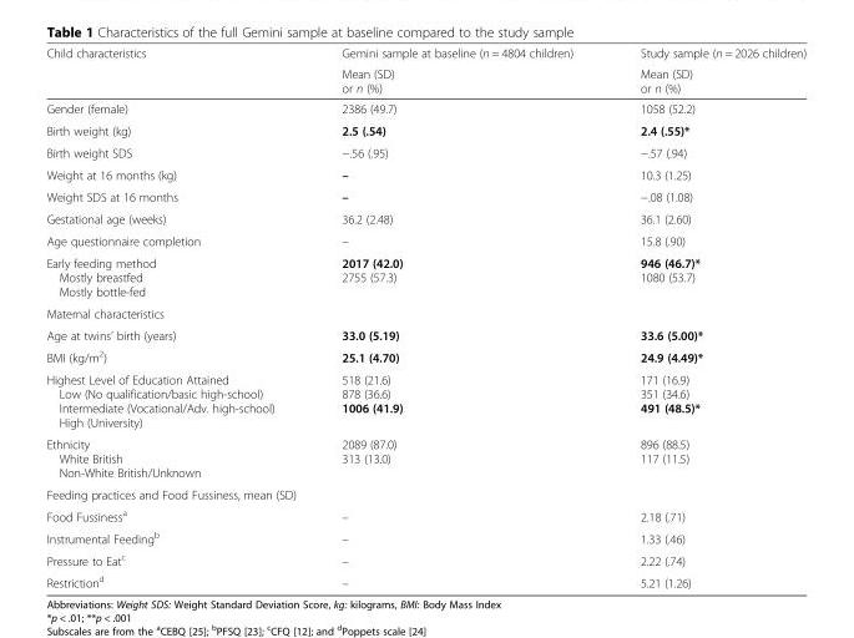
<table><thead><tr><td rowspan="2">Child characteristics</td><td rowspan="2">Gemini sample at baseline (n = 4804 children) Mean (SD) or n (%)</td><td rowspan="2">Study sample (n = 2026 children) Mean (SD) or n (%)</td></tr><tr></tr></thead><tbody><tr><td>Gender (female)</td><td>2386 (49.7)</td><td>1058 (52.2)</td></tr><tr><td>Birth weight (kg)</td><td>2.5 (.54)</td><td>2.4 (.55)*</td></tr><tr><td>Birth weight SDS</td><td>−.56 (.95)</td><td>−.57 (.94)</td></tr><tr><td>Weight at 16 months (kg)</td><td>–</td><td>10.3 (1.25)</td></tr><tr><td>Weight SDS at 16 months</td><td>–</td><td>−.08 (1.08)</td></tr><tr><td>Gestational age (weeks)</td><td>36.2 (2.48)</td><td>36.1 (2.60)</td></tr><tr><td>Age questionnaire completion</td><td>–</td><td>15.8 (.90)</td></tr><tr><td>Early feeding method Mostly breastfed Mostly bottle-fed</td><td>2017 (42.0) 2755 (57.3)</td><td>946 (46.7)* 1080 (53.7)</td></tr><tr><td colspan="3">Maternal characteristics</td></tr><tr><td>Age at twins’ birth (years)</td><td>33.0 (5.19)</td><td>33.6 (5.00)*</td></tr><tr><td>BMI (kg/m<sup>2</sup>)</td><td>25.1 (4.70)</td><td>24.9 (4.49)*</td></tr><tr><td>Highest Level of Education Attained Low (No qualification/basic high-school) Intermediate (Vocational/Adv. high-school) High (University)</td><td>518 (21.6) 878 (36.6) 1006 (41.9)</td><td>171 (16.9) 351 (34.6) 491 (48.5)*</td></tr><tr><td>Ethnicity White British Non-White British/Unknown</td><td>2089 (87.0) 313 (13.0)</td><td>896 (88.5) 117 (11.5)</td></tr><tr><td colspan="3">Feeding practices and Food Fussiness, mean (SD)</td></tr><tr><td>Food Fussiness<sup>a</sup></td><td>–</td><td>2.18 (.71)</td></tr><tr><td>Instrumental Feeding<sup>b</sup></td><td>–</td><td>1.33 (.46)</td></tr><tr><td>Pressure to Eat<sup>c</sup></td><td>–</td><td>2.22 (.74)</td></tr><tr><td>Restriction<sup>d</sup></td><td>–</td><td>5.21 (1.26)</td></tr></tbody></table>